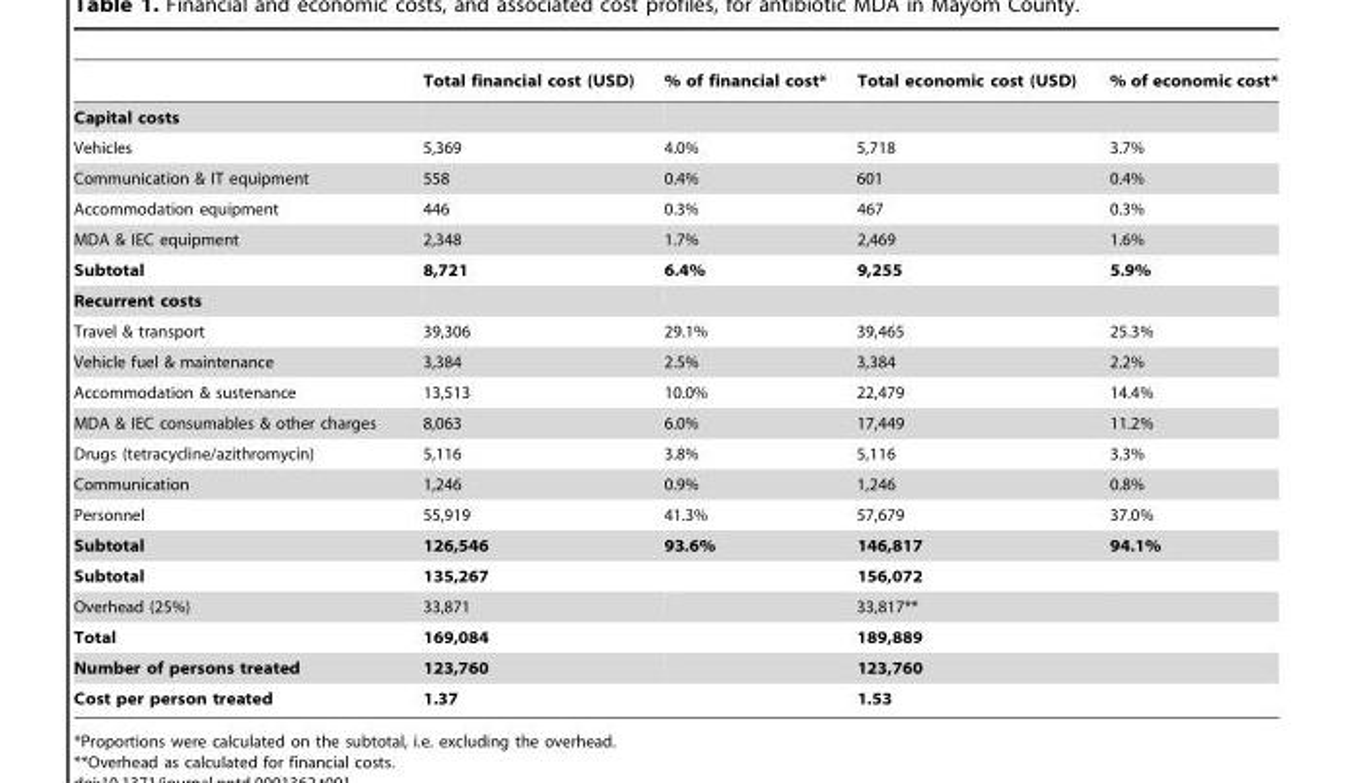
<table><thead><tr><td></td><td>Total financial cost (USD)</td><td>% of financial cost*</td><td>Total economic cost (USD)</td><td>% of economic cost*</td></tr></thead><tbody><tr><td colspan="5">Capital costs</td></tr><tr><td>Vehicles</td><td>5,369</td><td>4.0%</td><td>5,718</td><td>3.7%</td></tr><tr><td>Communication &amp; IT equipment</td><td>558</td><td>0.4%</td><td>601</td><td>0.4%</td></tr><tr><td>Accommodation equipment</td><td>446</td><td>0.3%</td><td>467</td><td>0.3%</td></tr><tr><td>MDA &amp; IEC equipment</td><td>2,348</td><td>1.7%</td><td>2,469</td><td>1.6%</td></tr><tr><td>Subtotal</td><td>8,721</td><td>6.4%</td><td>9,255</td><td>5.9%</td></tr><tr><td colspan="5">Recurrent costs</td></tr><tr><td>Travel &amp; transport</td><td>39,306</td><td>29.1%</td><td>39,465</td><td>25.3%</td></tr><tr><td>Vehicle fuel &amp; maintenance</td><td>3,384</td><td>2.5%</td><td>3,384</td><td>2.2%</td></tr><tr><td>Accommodation &amp; sustenance</td><td>13,513</td><td>10.0%</td><td>22,479</td><td>14.4%</td></tr><tr><td>MDA &amp; IEC consumables &amp; other charges</td><td>8,063</td><td>6.0%</td><td>17,449</td><td>11.2%</td></tr><tr><td>Drugs (tetracycline/azithromycin)</td><td>5,116</td><td>3.8%</td><td>5,116</td><td>3.3%</td></tr><tr><td>Communication</td><td>1,246</td><td>0.9%</td><td>1,246</td><td>0.8%</td></tr><tr><td>Personnel</td><td>55,919</td><td>41.3%</td><td>57,679</td><td>37.0%</td></tr><tr><td>Subtotal</td><td>126,546</td><td>93.6%</td><td>146,817</td><td>94.1%</td></tr><tr><td>Subtotal</td><td>135,267</td><td></td><td>156,072</td><td></td></tr><tr><td>Overhead (25%)</td><td>33,871</td><td></td><td>33,817**</td><td></td></tr><tr><td>Total</td><td>169,084</td><td></td><td>189,889</td><td></td></tr><tr><td>Number of persons treated</td><td>123,760</td><td></td><td>123,760</td><td></td></tr><tr><td>Cost per person treated</td><td>1.37</td><td></td><td>1.53</td><td></td></tr></tbody></table>